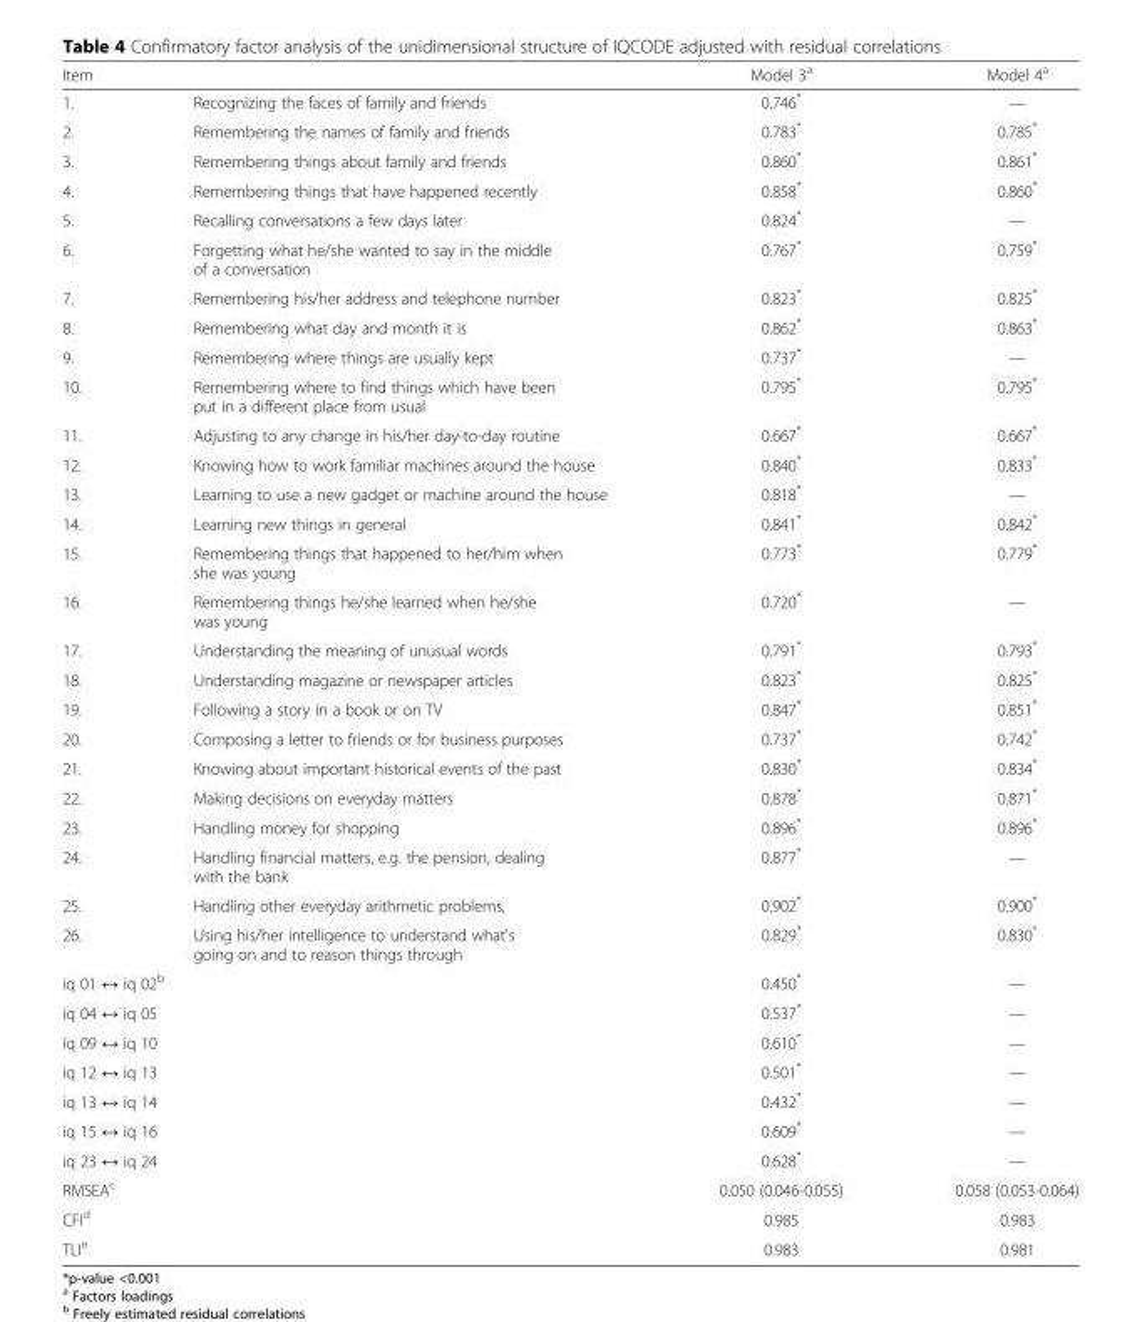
<table><thead><tr><td colspan="2">Item</td><td rowspan="2">Model 3<sup>a</sup> 0.746*</td><td rowspan="2">Model 4a —</td></tr><tr><td>1.</td><td>Recognizing the faces of family and friends</td></tr></thead><tbody><tr><td>2.</td><td>Remembering the names of family and friends</td><td>0.783*</td><td>0.785*</td></tr><tr><td>3.</td><td>Remembering things about family and friends</td><td>0.860*</td><td>0.861*</td></tr><tr><td>4.</td><td>Remembering things that have happened recently</td><td>0.858*</td><td>0.860*</td></tr><tr><td>5.</td><td>Recalling conversations a few days later</td><td>0.824*</td><td>—</td></tr><tr><td>6.</td><td>Forgetting what he/she wanted to say in the middle of a conversation</td><td>0.767*</td><td>0.759*</td></tr><tr><td>7.</td><td>Remembering his/her address and telephone number</td><td>0.823*</td><td>0.825*</td></tr><tr><td>8.</td><td>Remembering what day and month it is</td><td>0.862*</td><td>0.863*</td></tr><tr><td>9.</td><td>Remembering where things are usually kept</td><td>0.737*</td><td>—</td></tr><tr><td>10.</td><td>Remembering where to find things which have been put in a different place from usual</td><td>0.795*</td><td>0.795*</td></tr><tr><td>11.</td><td>Adjusting to any change in his/her day-to-day routine</td><td>0.667*</td><td>0.667*</td></tr><tr><td>12.</td><td>Knowing how to work familiar machines around the house</td><td>0.840*</td><td>0.833*</td></tr><tr><td>13.</td><td>Learning to use a new gadget or machine around the house</td><td>0.818*</td><td>—</td></tr><tr><td>14.</td><td>Learning new things in general</td><td>0.841*</td><td>0.842*</td></tr><tr><td>15.</td><td>Remembering things that happened to her/him when she was young</td><td>0.773*</td><td>0.779*</td></tr><tr><td>16.</td><td>Remembering things he/she learned when he/she was young</td><td>0.720*</td><td>—</td></tr><tr><td>17.</td><td>Understanding the meaning of unusual words</td><td>0.791*</td><td>0.793*</td></tr><tr><td>18.</td><td>Understanding magazine or newspaper articles</td><td>0.823*</td><td>0.825*</td></tr><tr><td>19.</td><td>Following a story in a book or on TV</td><td>0.847*</td><td>0.851*</td></tr><tr><td>20.</td><td>Composing a letter to friends or for business purposes</td><td>0.737*</td><td>0.742*</td></tr><tr><td>21.</td><td>Knowing about important historical events of the past</td><td>0.830*</td><td>0.834*</td></tr><tr><td>22.</td><td>Making decisions on everyday matters</td><td>0.878*</td><td>0.871*</td></tr><tr><td>23.</td><td>Handling money for shopping</td><td>0.896*</td><td>0.896*</td></tr><tr><td>24.</td><td>Handling financial matters, e.g. the pension, dealing with the bank</td><td>0.877*</td><td>—</td></tr><tr><td>25.</td><td>Handling other everyday arithmetic problems,</td><td>0.902*</td><td>0.900*</td></tr><tr><td>26.</td><td>Using his/her intelligence to understand what&#x27;s going on and to reason things through</td><td>0.829*</td><td>0.830*</td></tr><tr><td colspan="2">iq 01 ↔ iq 02<sup>b</sup></td><td>0.450*</td><td>—</td></tr><tr><td colspan="2">iq 04 ↔ iq 05</td><td>0.537*</td><td>—</td></tr><tr><td colspan="2">iq 09 ↔ iq 10</td><td>0.610*</td><td>—</td></tr><tr><td colspan="2">iq 12 ↔ iq 13</td><td>0.501*</td><td>—</td></tr><tr><td colspan="2">iq 13 ↔ iq 14</td><td>0.432*</td><td>—</td></tr><tr><td colspan="2">iq 15 ↔ iq 16</td><td>0.609*</td><td>—</td></tr><tr><td colspan="2">iq 23 ↔ iq 24</td><td>0.628*</td><td>—</td></tr><tr><td colspan="2">RMSEA<sup>c</sup></td><td>0.050 (0.046-0.055)</td><td>0.058 (0.053-0.064)</td></tr><tr><td colspan="2">CFI<sup>d</sup></td><td>0.985</td><td>0.983</td></tr><tr><td colspan="2">TLI<sup>e</sup></td><td>0.983</td><td>0.981</td></tr></tbody></table>